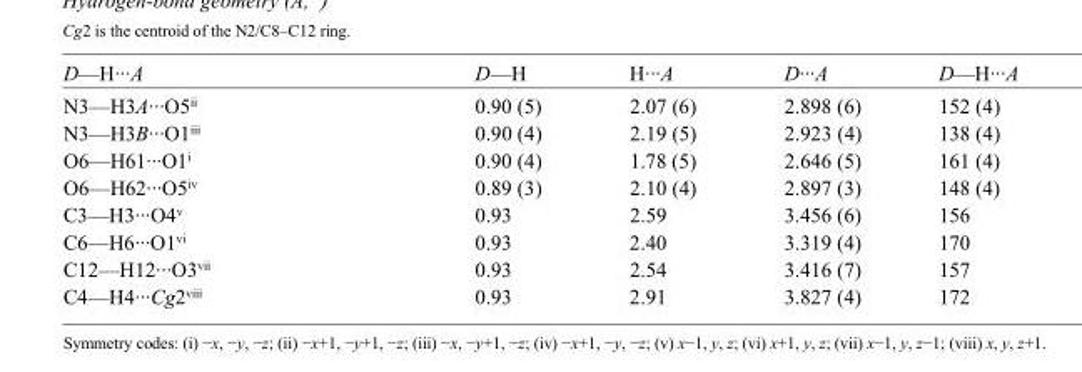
<table><tbody><tr><td>D—H···A</td><td>D—H</td><td>H···A</td><td>D···A</td><td>D—H···A</td></tr><tr><td>N3—H3A···O5<sup>ii</sup></td><td>0.90 (5)</td><td>2.07 (6)</td><td>2.898 (6)</td><td>152 (4)</td></tr><tr><td>N3—H3B···O1<sup>iii</sup></td><td>0.90 (4)</td><td>2.19 (5)</td><td>2.923 (4)</td><td>138 (4)</td></tr><tr><td>O6—H61···O1<sup>i</sup></td><td>0.90 (4)</td><td>1.78 (5)</td><td>2.646 (5)</td><td>161 (4)</td></tr><tr><td>O6—H62···O5<sup>iv</sup></td><td>0.89 (3)</td><td>2.10 (4)</td><td>2.897 (3)</td><td>148 (4)</td></tr><tr><td>C3—H3···O4<sup>v</sup></td><td>0.93</td><td>2.59</td><td>3.456 (6)</td><td>156</td></tr><tr><td>C6—H6···O1<sup>vi</sup></td><td>0.93</td><td>2.40</td><td>3.319 (4)</td><td>170</td></tr><tr><td>C12—H12···O3<sup>vii</sup></td><td>0.93</td><td>2.54</td><td>3.416 (7)</td><td>157</td></tr><tr><td>C4—H4···Cg2<sup>viii</sup></td><td>0.93</td><td>2.91</td><td>3.827 (4)</td><td>172</td></tr></tbody></table>